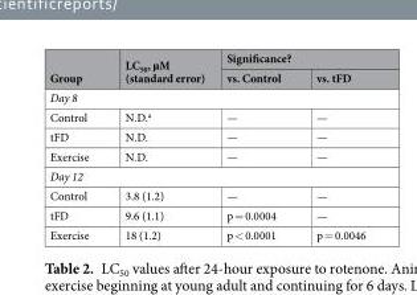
<table><thead><tr><td rowspan="2">Group</td><td rowspan="2">LC<sub>50</sub>, µM (standard error)</td><td colspan="2">Significance?</td></tr><tr><td>vs. Control</td><td>vs. tFD</td></tr></thead><tbody><tr><td colspan="4">Day 8</td></tr><tr><td>Control</td><td>N.D.<sup>a</sup></td><td>—</td><td>—</td></tr><tr><td>tFD</td><td>N.D.</td><td>—</td><td>—</td></tr><tr><td>Exercise</td><td>N.D.</td><td>—</td><td>—</td></tr><tr><td colspan="4">Day 12</td></tr><tr><td>Control</td><td>3.8 (1.2)</td><td>—</td><td>—</td></tr><tr><td>tFD</td><td>9.6 (1.1)</td><td>p = 0.0004</td><td>—</td></tr><tr><td>Exercise</td><td>18 (1.2)</td><td>p &lt; 0.0001</td><td>p = 0.0046</td></tr></tbody></table>